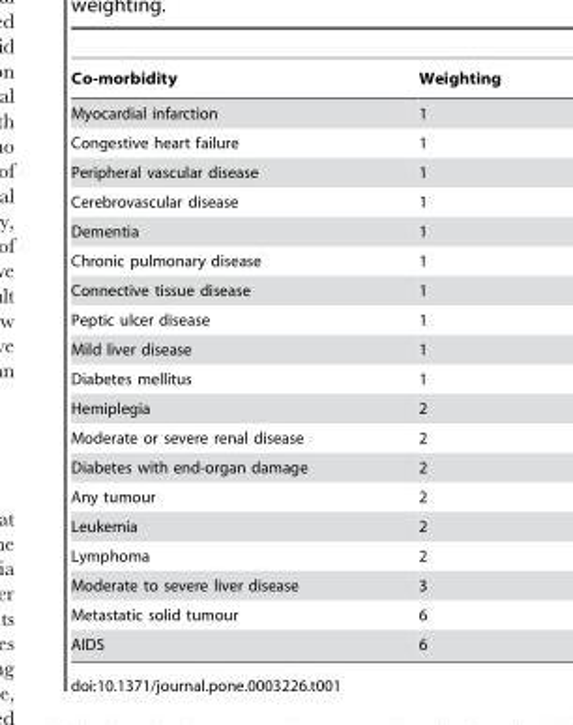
<table><thead><tr><td>Co-morbidity</td><td>Weighting</td></tr></thead><tbody><tr><td>Myocardial infarction</td><td>1</td></tr><tr><td>Congestive heart failure</td><td>1</td></tr><tr><td>Peripheral vascular disease</td><td>1</td></tr><tr><td>Cerebrovascular disease</td><td>1</td></tr><tr><td>Dementia</td><td>1</td></tr><tr><td>Chronic pulmonary disease</td><td>1</td></tr><tr><td>Connective tissue disease</td><td>1</td></tr><tr><td>Peptic ulcer disease</td><td>1</td></tr><tr><td>Mild liver disease</td><td>1</td></tr><tr><td>Diabetes mellitus</td><td>1</td></tr><tr><td>Hemiplegia</td><td>2</td></tr><tr><td>Moderate or severe renal disease</td><td>2</td></tr><tr><td>Diabetes with end-organ damage</td><td>2</td></tr><tr><td>Any tumour</td><td>2</td></tr><tr><td>Leukemia</td><td>2</td></tr><tr><td>Lymphoma</td><td>2</td></tr><tr><td>Moderate to severe liver disease</td><td>3</td></tr><tr><td>Metastatic solid tumour</td><td>6</td></tr><tr><td>AIDS</td><td>6</td></tr></tbody></table>